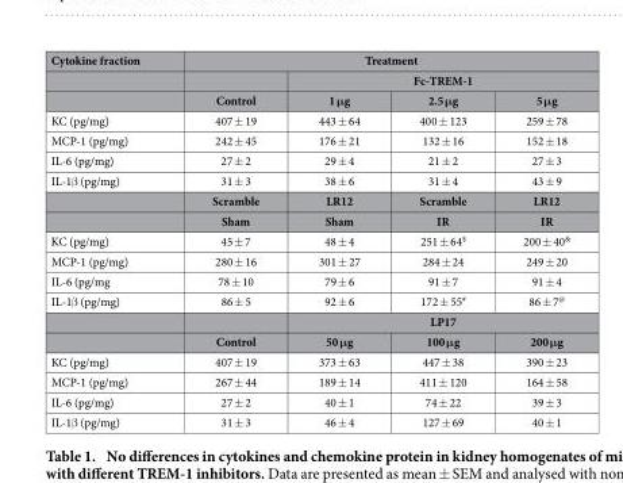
<table><thead><tr><td rowspan="3">Cytokine fraction</td><td colspan="4">Treatment</td></tr><tr><td rowspan="2">Control</td><td colspan="3">Fc-TREM-1</td></tr><tr><td>1 μg</td><td>2.5 μg</td><td>5 μg</td></tr></thead><tbody><tr><td>KC (pg/mg)</td><td>407 ± 19</td><td>443 ± 64</td><td>400 ± 123</td><td>259 ± 78</td></tr><tr><td>MCP-1 (pg/mg)</td><td>242 ± 45</td><td>176 ± 21</td><td>132 ± 16</td><td>152 ± 18</td></tr><tr><td>IL-6 (pg/mg)</td><td>27 ± 2</td><td>29 ± 4</td><td>21 ± 2</td><td>27 ± 3</td></tr><tr><td rowspan="3">IL-1β (pg/mg)</td><td>31 ± 3</td><td>38 ± 6</td><td>31 ± 4</td><td>43 ± 9</td></tr><tr><td>Scramble</td><td>LR12</td><td>Scramble</td><td>LR12</td></tr><tr><td>Sham</td><td>Sham</td><td>IR</td><td>IR</td></tr><tr><td>KC (pg/mg)</td><td>45 ± 7</td><td>48 ± 4</td><td>251 ± 64<sup>$</sup></td><td>200 ± 40<sup>&amp;</sup></td></tr><tr><td>MCP-1 (pg/mg)</td><td>280 ± 16</td><td>301 ± 27</td><td>284 ± 24</td><td>249 ± 20</td></tr><tr><td>IL-6 (pg/mg</td><td>78 ± 10</td><td>79 ± 6</td><td>91 ± 7</td><td>91 ± 4</td></tr><tr><td rowspan="3">IL-1β (pg/mg)</td><td>86 ± 5</td><td>92 ± 6</td><td>172 ± 55<sup>#</sup></td><td>86 ± 7<sup>@</sup></td></tr><tr><td></td><td colspan="3">LP17</td></tr><tr><td>Control</td><td>50 μg</td><td>100 μg</td><td>200 μg</td></tr><tr><td>KC (pg/mg)</td><td>407 ± 19</td><td>373 ± 63</td><td>447 ± 38</td><td>390 ± 23</td></tr><tr><td>MCP-1 (pg/mg)</td><td>267 ± 44</td><td>189 ± 14</td><td>411 ± 120</td><td>164 ± 58</td></tr><tr><td>IL-6 (pg/mg)</td><td>27 ± 2</td><td>40 ± 1</td><td>74 ± 22</td><td>39 ± 3</td></tr><tr><td>IL-1β (pg/mg)</td><td>31 ± 3</td><td>46 ± 4</td><td>127 ± 69</td><td>40 ± 1</td></tr></tbody></table>